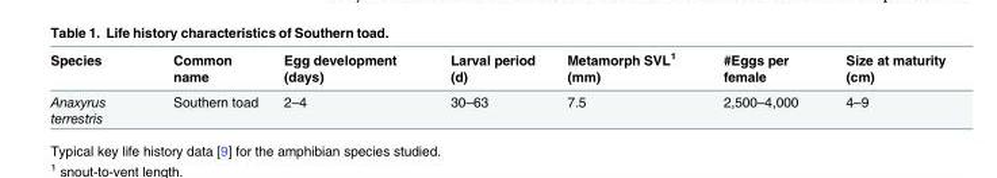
<table><thead><tr><td>Species</td><td>Common name</td><td>Egg development (days)</td><td>Larval period (d)</td><td>Metamorph SVL<sup>1</sup> (mm)</td><td>#Eggs per female</td><td>Size at maturity (cm)</td></tr></thead><tbody><tr><td>Anaxyrus terrestris</td><td>Southern toad</td><td>2–4</td><td>30–63</td><td>7.5</td><td>2,500–4,000</td><td>4–9</td></tr></tbody></table>